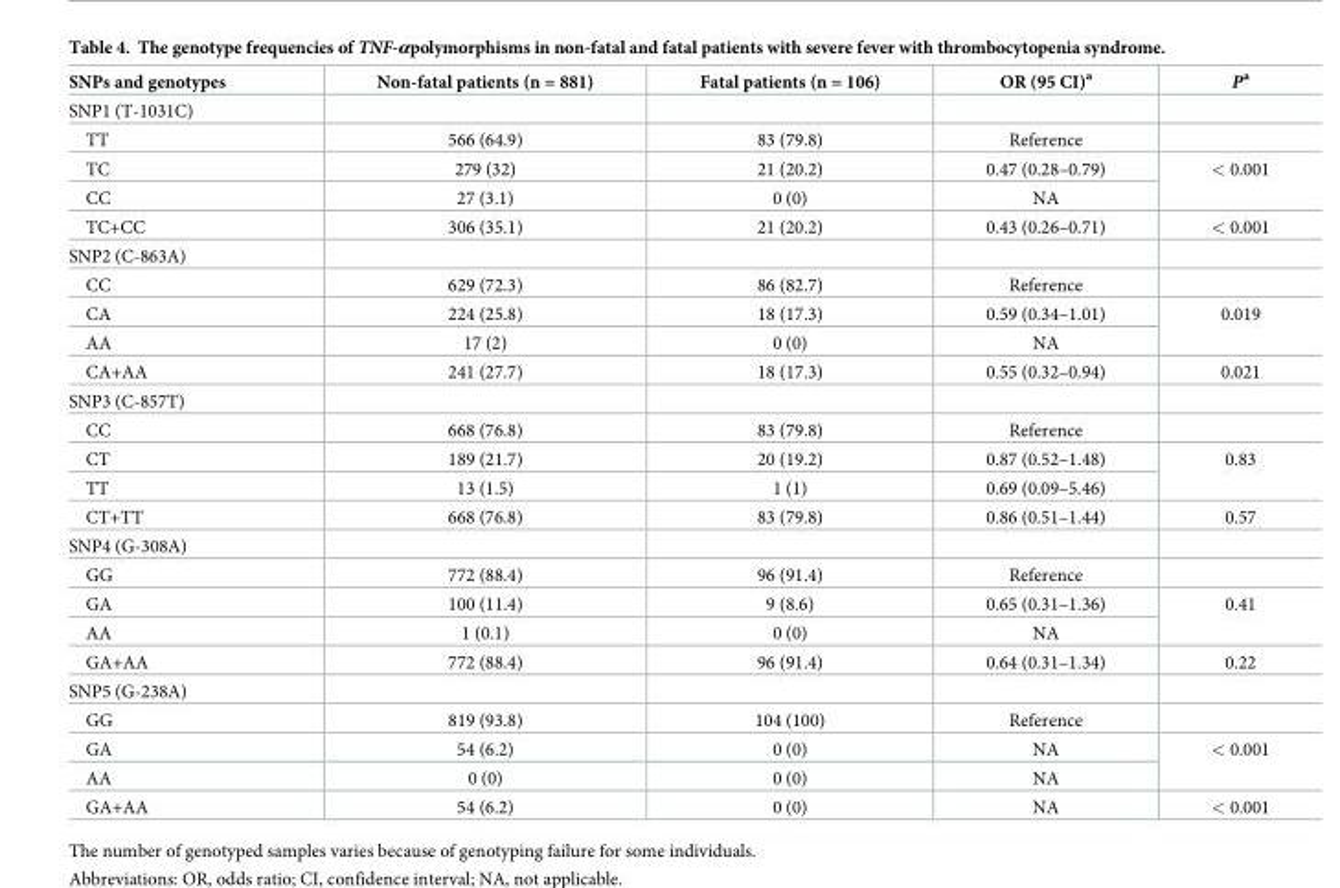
<table><thead><tr><td>SNPs and genotypes</td><td>Non-fatal patients (n = 881)</td><td>Fatal patients (n = 106)</td><td>OR (95 CI)<sup>a</sup></td><td>P<sup>a</sup></td></tr></thead><tbody><tr><td colspan="5">SNP1 (T-1031C)</td></tr><tr><td>TT</td><td>566 (64.9)</td><td>83 (79.8)</td><td>Reference</td><td></td></tr><tr><td>TC</td><td>279 (32)</td><td>21 (20.2)</td><td>0.47 (0.28–0.79)</td><td rowspan="2">&lt; 0.001</td></tr><tr><td>CC</td><td>27 (3.1)</td><td>0 (0)</td><td>NA</td></tr><tr><td>TC+CC</td><td>306 (35.1)</td><td>21 (20.2)</td><td>0.43 (0.26–0.71)</td><td>&lt; 0.001</td></tr><tr><td colspan="5">SNP2 (C-863A)</td></tr><tr><td>CC</td><td>629 (72.3)</td><td>86 (82.7)</td><td>Reference</td><td></td></tr><tr><td>CA</td><td>224 (25.8)</td><td>18 (17.3)</td><td>0.59 (0.34–1.01)</td><td rowspan="2">0.019</td></tr><tr><td>AA</td><td>17 (2)</td><td>0 (0)</td><td>NA</td></tr><tr><td>CA+AA</td><td>241 (27.7)</td><td>18 (17.3)</td><td>0.55 (0.32–0.94)</td><td>0.021</td></tr><tr><td colspan="5">SNP3 (C-857T)</td></tr><tr><td>CC</td><td>668 (76.8)</td><td>83 (79.8)</td><td>Reference</td><td></td></tr><tr><td>CT</td><td>189 (21.7)</td><td>20 (19.2)</td><td>0.87 (0.52–1.48)</td><td rowspan="2">0.83</td></tr><tr><td>TT</td><td>13 (1.5)</td><td>1 (1)</td><td>0.69 (0.09–5.46)</td></tr><tr><td>CT+TT</td><td>668 (76.8)</td><td>83 (79.8)</td><td>0.86 (0.51–1.44)</td><td>0.57</td></tr><tr><td colspan="5">SNP4 (G-308A)</td></tr><tr><td>GG</td><td>772 (88.4)</td><td>96 (91.4)</td><td>Reference</td><td></td></tr><tr><td>GA</td><td>100 (11.4)</td><td>9 (8.6)</td><td>0.65 (0.31–1.36)</td><td rowspan="2">0.41</td></tr><tr><td>AA</td><td>1 (0.1)</td><td>0 (0)</td><td>NA</td></tr><tr><td>GA+AA</td><td>772 (88.4)</td><td>96 (91.4)</td><td>0.64 (0.31–1.34)</td><td>0.22</td></tr><tr><td colspan="5">SNP5 (G-238A)</td></tr><tr><td>GG</td><td>819 (93.8)</td><td>104 (100)</td><td>Reference</td><td></td></tr><tr><td>GA</td><td>54 (6.2)</td><td>0 (0)</td><td>NA</td><td rowspan="2">&lt; 0.001</td></tr><tr><td>AA</td><td>0 (0)</td><td>0 (0)</td><td>NA</td></tr><tr><td>GA+AA</td><td>54 (6.2)</td><td>0 (0)</td><td>NA</td><td>&lt; 0.001</td></tr></tbody></table>